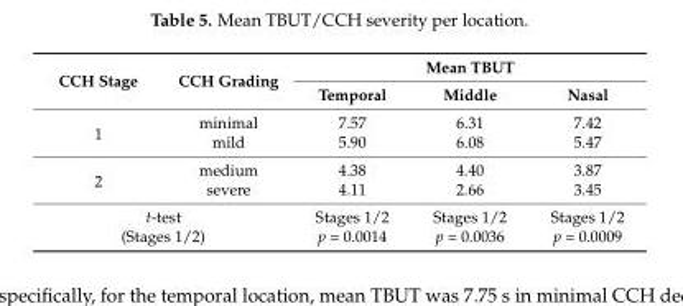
<table><thead><tr><td rowspan="2">CCH Stage</td><td rowspan="2">CCH Grading</td><td colspan="3">Mean TBUT</td></tr><tr><td>Temporal</td><td>Middle</td><td>Nasal</td></tr></thead><tbody><tr><td rowspan="2">1</td><td>minimal</td><td>7.57</td><td>6.31</td><td>7.42</td></tr><tr><td>mild</td><td>5.90</td><td>6.08</td><td>5.47</td></tr><tr><td rowspan="2">2</td><td>medium</td><td>4.38</td><td>4.40</td><td>3.87</td></tr><tr><td>severe</td><td>4.11</td><td>2.66</td><td>3.45</td></tr><tr><td colspan="2">t-test (Stages 1/2)</td><td>Stages 1/2 p = 0.0014</td><td>Stages 1/2 p = 0.0036</td><td>Stages 1/2 p = 0.0009</td></tr></tbody></table>